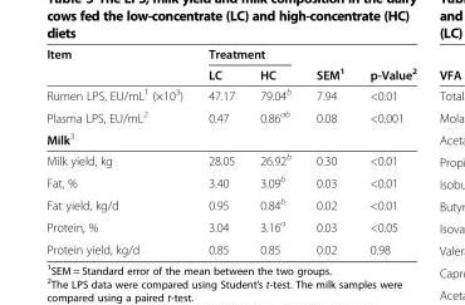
<table><thead><tr><td rowspan="2">Item</td><td colspan="2">Treatment</td><td rowspan="2">SEM<sup>1</sup></td><td rowspan="2">p-Value<sup>2</sup></td></tr><tr><td>LC</td><td>HC</td></tr></thead><tbody><tr><td>Rumen LPS, EU/mL<sup>1</sup> (×10<sup>3</sup>)</td><td>47.17</td><td>79.04<sup>b</sup></td><td>7.94</td><td>&lt;0.01</td></tr><tr><td>Plasma LPS, EU/mL<sup>2</sup></td><td>0.47</td><td>0.86<sup>ab</sup></td><td>0.08</td><td>&lt;0.001</td></tr><tr><td colspan="5">Milk<sup>3</sup></td></tr><tr><td>Milk yield, kg</td><td>28.05</td><td>26.92<sup>b</sup></td><td>0.30</td><td>&lt;0.01</td></tr><tr><td>Fat, %</td><td>3.40</td><td>3.09<sup>b</sup></td><td>0.03</td><td>&lt;0.01</td></tr><tr><td>Fat yield, kg/d</td><td>0.95</td><td>0.84<sup>b</sup></td><td>0.02</td><td>&lt;0.01</td></tr><tr><td>Protein, %</td><td>3.04</td><td>3.16<sup>a</sup></td><td>0.03</td><td>&lt;0.05</td></tr><tr><td>Protein yield, kg/d</td><td>0.85</td><td>0.85</td><td>0.02</td><td>0.98</td></tr></tbody></table>